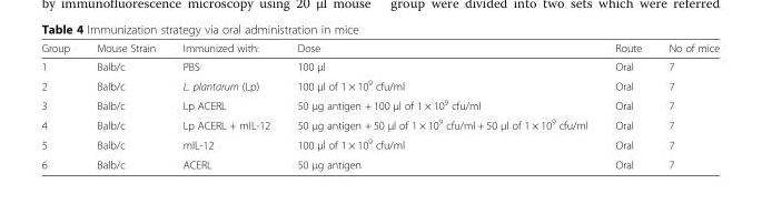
<table><thead><tr><td>Group</td><td>Mouse Strain</td><td>Immunized with:</td><td>Dose</td><td>Route</td><td>No of mice</td></tr></thead><tbody><tr><td>1</td><td>Balb/c</td><td>PBS</td><td>100 μl</td><td>Oral</td><td>7</td></tr><tr><td>2</td><td>Balb/c</td><td>L. plantarum (Lp)</td><td>100 μl of 1 × 10<sup>9</sup> cfu/ml</td><td>Oral</td><td>7</td></tr><tr><td>3</td><td>Balb/c</td><td>Lp ACERL</td><td>50 μg antigen + 100 μl of 1 × 10<sup>9</sup> cfu/ml</td><td>Oral</td><td>7</td></tr><tr><td>4</td><td>Balb/c</td><td>Lp ACERL + mIL-12</td><td>50 μg antigen + 50 μl of 1 × 10<sup>9</sup> cfu/ml + 50 μl of 1 × 10<sup>9</sup> cfu/ml</td><td>Oral</td><td>7</td></tr><tr><td>5</td><td>Balb/c</td><td>mIL-12</td><td>100 μl of 1 × 10<sup>9</sup> cfu/ml</td><td>Oral</td><td>7</td></tr><tr><td>6</td><td>Balb/c</td><td>ACERL</td><td>50 μg antigen</td><td>Oral</td><td>7</td></tr></tbody></table>